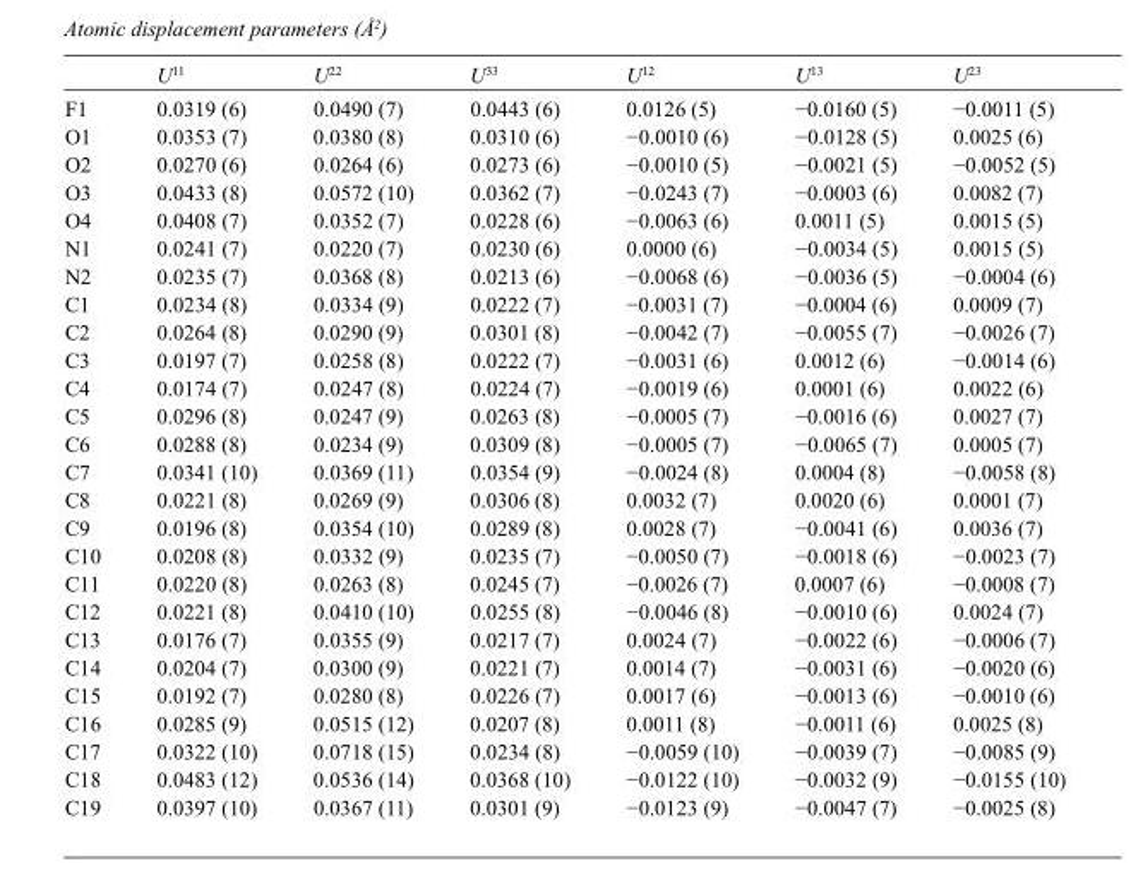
<table><thead><tr><td></td><td>U<sup>11</sup></td><td>U<sup>22</sup></td><td>U<sup>33</sup></td><td>U<sup>12</sup></td><td>U<sup>13</sup></td><td>U<sup>23</sup></td></tr></thead><tbody><tr><td>F1</td><td>0.0319 (6)</td><td>0.0490 (7)</td><td>0.0443 (6)</td><td>0.0126 (5)</td><td>−0.0160 (5)</td><td>−0.0011 (5)</td></tr><tr><td>O1</td><td>0.0353 (7)</td><td>0.0380 (8)</td><td>0.0310 (6)</td><td>−0.0010 (6)</td><td>−0.0128 (5)</td><td>0.0025 (6)</td></tr><tr><td>O2</td><td>0.0270 (6)</td><td>0.0264 (6)</td><td>0.0273 (6)</td><td>−0.0010 (5)</td><td>−0.0021 (5)</td><td>−0.0052 (5)</td></tr><tr><td>O3</td><td>0.0433 (8)</td><td>0.0572 (10)</td><td>0.0362 (7)</td><td>−0.0243 (7)</td><td>−0.0003 (6)</td><td>0.0082 (7)</td></tr><tr><td>O4</td><td>0.0408 (7)</td><td>0.0352 (7)</td><td>0.0228 (6)</td><td>−0.0063 (6)</td><td>0.0011 (5)</td><td>0.0015 (5)</td></tr><tr><td>N1</td><td>0.0241 (7)</td><td>0.0220 (7)</td><td>0.0230 (6)</td><td>0.0000 (6)</td><td>−0.0034 (5)</td><td>0.0015 (5)</td></tr><tr><td>N2</td><td>0.0235 (7)</td><td>0.0368 (8)</td><td>0.0213 (6)</td><td>−0.0068 (6)</td><td>−0.0036 (5)</td><td>−0.0004 (6)</td></tr><tr><td>C1</td><td>0.0234 (8)</td><td>0.0334 (9)</td><td>0.0222 (7)</td><td>−0.0031 (7)</td><td>−0.0004 (6)</td><td>0.0009 (7)</td></tr><tr><td>C2</td><td>0.0264 (8)</td><td>0.0290 (9)</td><td>0.0301 (8)</td><td>−0.0042 (7)</td><td>−0.0055 (7)</td><td>−0.0026 (7)</td></tr><tr><td>C3</td><td>0.0197 (7)</td><td>0.0258 (8)</td><td>0.0222 (7)</td><td>−0.0031 (6)</td><td>0.0012 (6)</td><td>−0.0014 (6)</td></tr><tr><td>C4</td><td>0.0174 (7)</td><td>0.0247 (8)</td><td>0.0224 (7)</td><td>−0.0019 (6)</td><td>0.0001 (6)</td><td>0.0022 (6)</td></tr><tr><td>C5</td><td>0.0296 (8)</td><td>0.0247 (9)</td><td>0.0263 (8)</td><td>−0.0005 (7)</td><td>−0.0016 (6)</td><td>0.0027 (7)</td></tr><tr><td>C6</td><td>0.0288 (8)</td><td>0.0234 (9)</td><td>0.0309 (8)</td><td>−0.0005 (7)</td><td>−0.0065 (7)</td><td>0.0005 (7)</td></tr><tr><td>C7</td><td>0.0341 (10)</td><td>0.0369 (11)</td><td>0.0354 (9)</td><td>−0.0024 (8)</td><td>0.0004 (8)</td><td>−0.0058 (8)</td></tr><tr><td>C8</td><td>0.0221 (8)</td><td>0.0269 (9)</td><td>0.0306 (8)</td><td>0.0032 (7)</td><td>0.0020 (6)</td><td>0.0001 (7)</td></tr><tr><td>C9</td><td>0.0196 (8)</td><td>0.0354 (10)</td><td>0.0289 (8)</td><td>0.0028 (7)</td><td>−0.0041 (6)</td><td>0.0036 (7)</td></tr><tr><td>C10</td><td>0.0208 (8)</td><td>0.0332 (9)</td><td>0.0235 (7)</td><td>−0.0050 (7)</td><td>−0.0018 (6)</td><td>−0.0023 (7)</td></tr><tr><td>C11</td><td>0.0220 (8)</td><td>0.0263 (8)</td><td>0.0245 (7)</td><td>−0.0026 (7)</td><td>0.0007 (6)</td><td>−0.0008 (7)</td></tr><tr><td>C12</td><td>0.0221 (8)</td><td>0.0410 (10)</td><td>0.0255 (8)</td><td>−0.0046 (8)</td><td>−0.0010 (6)</td><td>0.0024 (7)</td></tr><tr><td>C13</td><td>0.0176 (7)</td><td>0.0355 (9)</td><td>0.0217 (7)</td><td>0.0024 (7)</td><td>−0.0022 (6)</td><td>−0.0006 (7)</td></tr><tr><td>C14</td><td>0.0204 (7)</td><td>0.0300 (9)</td><td>0.0221 (7)</td><td>0.0014 (7)</td><td>−0.0031 (6)</td><td>−0.0020 (6)</td></tr><tr><td>C15</td><td>0.0192 (7)</td><td>0.0280 (8)</td><td>0.0226 (7)</td><td>0.0017 (6)</td><td>−0.0013 (6)</td><td>−0.0010 (6)</td></tr><tr><td>C16</td><td>0.0285 (9)</td><td>0.0515 (12)</td><td>0.0207 (8)</td><td>0.0011 (8)</td><td>−0.0011 (6)</td><td>0.0025 (8)</td></tr><tr><td>C17</td><td>0.0322 (10)</td><td>0.0718 (15)</td><td>0.0234 (8)</td><td>−0.0059 (10)</td><td>−0.0039 (7)</td><td>−0.0085 (9)</td></tr><tr><td>C18</td><td>0.0483 (12)</td><td>0.0536 (14)</td><td>0.0368 (10)</td><td>−0.0122 (10)</td><td>−0.0032 (9)</td><td>−0.0155 (10)</td></tr><tr><td>C19</td><td>0.0397 (10)</td><td>0.0367 (11)</td><td>0.0301 (9)</td><td>−0.0123 (9)</td><td>−0.0047 (7)</td><td>−0.0025 (8)</td></tr></tbody></table>